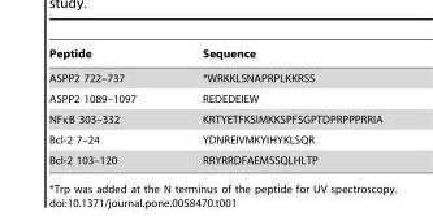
<table><thead><tr><td>Peptide</td><td>Sequence</td></tr></thead><tbody><tr><td>ASPP2 722–737</td><td>*WRKKLSNAPRPLKKRSS</td></tr><tr><td>ASPP2 1089–1097</td><td>REDEDEIEW</td></tr><tr><td>NFκB 303–332</td><td>KRTYETFKSIMKKSPFSGPTDPRPPPRRIA</td></tr><tr><td>Bcl-2 7–24</td><td>YDNREIVMKYIHYKLSQR</td></tr><tr><td>Bcl-2 103–120</td><td>RRYRRDFAEMSSQLHLTP</td></tr></tbody></table>